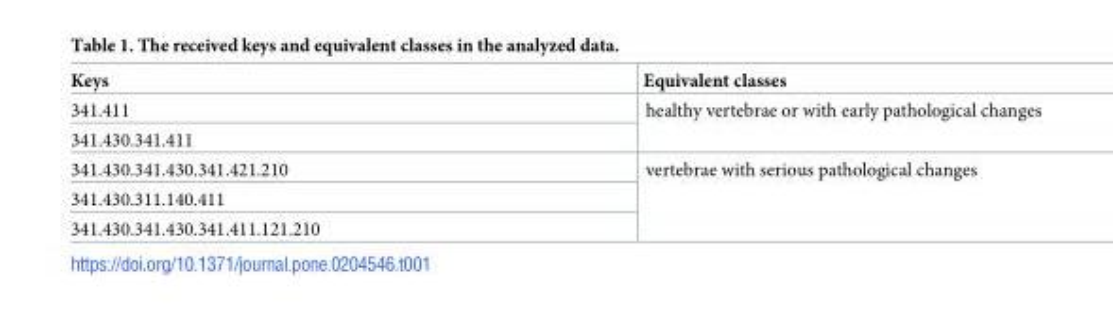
<table><thead><tr><td>Keys</td><td>Equivalent classes</td></tr></thead><tbody><tr><td>341.411</td><td rowspan="2">healthy vertebrae or with early pathological changes</td></tr><tr><td>341.430.341.411</td></tr><tr><td>341.430.341.430.341.421.210</td><td rowspan="3">vertebrae with serious pathological changes</td></tr><tr><td>341.430.311.140.411</td></tr><tr><td>341.430.341.430.341.411.121.210</td></tr></tbody></table>